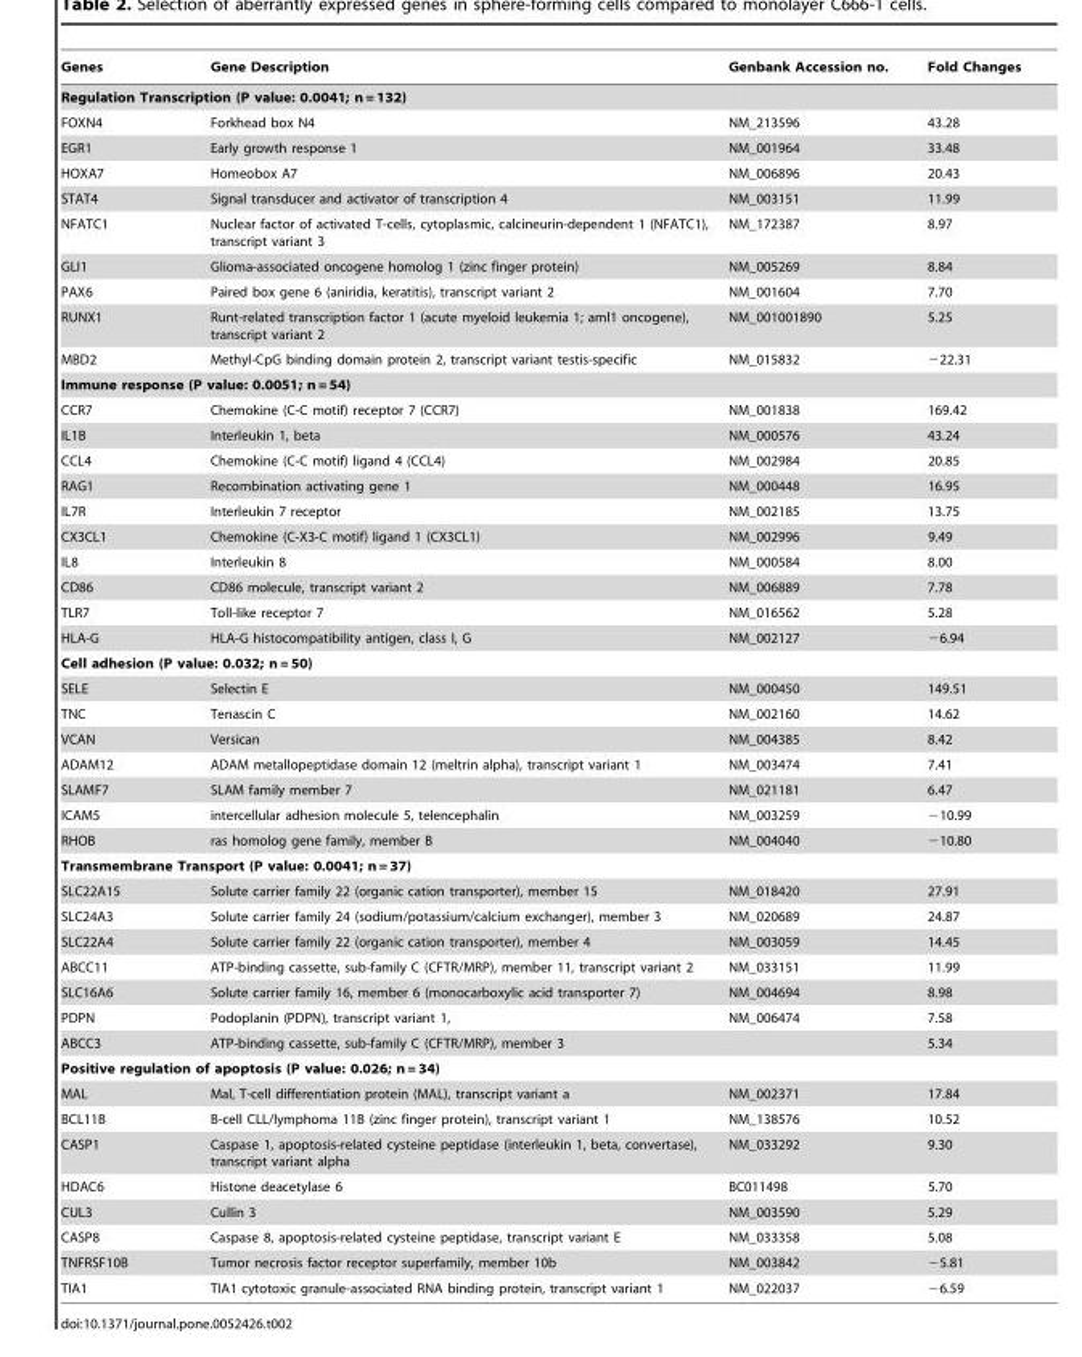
<table><thead><tr><td>Genes</td><td>Gene Description</td><td>Genbank Accession no.</td><td>Fold Changes</td></tr></thead><tbody><tr><td colspan="4">Regulation Transcription (P value: 0.0041; n = 132)</td></tr><tr><td>FOXN4</td><td>Forkhead box N4</td><td>NM_213596</td><td>43.28</td></tr><tr><td>EGR1</td><td>Early growth response 1</td><td>NM_001964</td><td>33.48</td></tr><tr><td>HOXA7</td><td>Homeobox A7</td><td>NM_006896</td><td>20.43</td></tr><tr><td>STAT4</td><td>Signal transducer and activator of transcription 4</td><td>NM_003151</td><td>11.99</td></tr><tr><td>NFATC1</td><td>Nuclear factor of activated T-cells, cytoplasmic, calcineurin-dependent 1 (NFATC1), transcript variant 3</td><td>NM_172387</td><td>8.97</td></tr><tr><td>GLI1</td><td>Glioma-associated oncogene homolog 1 (zinc finger protein)</td><td>NM_005269</td><td>8.84</td></tr><tr><td>PAX6</td><td>Paired box gene 6 (aniridia, keratitis), transcript variant 2</td><td>NM_001604</td><td>7.70</td></tr><tr><td>RUNX1</td><td>Runt-related transcription factor 1 (acute myeloid leukemia 1; aml1 oncogene), transcript variant 2</td><td>NM_001001890</td><td>5.25</td></tr><tr><td>MBD2</td><td>Methyl-CpG binding domain protein 2, transcript variant testis-specific</td><td>NM_015832</td><td>−22.31</td></tr><tr><td colspan="4">Immune response (P value: 0.0051; n = 54)</td></tr><tr><td>CCR7</td><td>Chemokine (C-C motif) receptor 7 (CCR7)</td><td>NM_001838</td><td>169.42</td></tr><tr><td>IL1B</td><td>Interleukin 1, beta</td><td>NM_000576</td><td>43.24</td></tr><tr><td>CCL4</td><td>Chemokine (C-C motif) ligand 4 (CCL4)</td><td>NM_002984</td><td>20.85</td></tr><tr><td>RAG1</td><td>Recombination activating gene 1</td><td>NM_000448</td><td>16.95</td></tr><tr><td>IL7R</td><td>Interleukin 7 receptor</td><td>NM_002185</td><td>13.75</td></tr><tr><td>CX3CL1</td><td>Chemokine (C-X3-C motif) ligand 1 (CX3CL1)</td><td>NM_002996</td><td>9.49</td></tr><tr><td>IL8</td><td>Interleukin 8</td><td>NM_000584</td><td>8.00</td></tr><tr><td>CD86</td><td>CD86 molecule, transcript variant 2</td><td>NM_006889</td><td>7.78</td></tr><tr><td>TLR7</td><td>Toll-like receptor 7</td><td>NM_016562</td><td>5.28</td></tr><tr><td>HLA-G</td><td>HLA-G histocompatibility antigen, class I, G</td><td>NM_002127</td><td>−6.94</td></tr><tr><td colspan="4">Cell adhesion (P value: 0.032; n = 50)</td></tr><tr><td>SELE</td><td>Selectin E</td><td>NM_000450</td><td>149.51</td></tr><tr><td>TNC</td><td>Tenascin C</td><td>NM_002160</td><td>14.62</td></tr><tr><td>VCAN</td><td>Versican</td><td>NM_004385</td><td>8.42</td></tr><tr><td>ADAM12</td><td>ADAM metallopeptidase domain 12 (meltrin alpha), transcript variant 1</td><td>NM_003474</td><td>7.41</td></tr><tr><td>SLAMF7</td><td>SLAM family member 7</td><td>NM_021181</td><td>6.47</td></tr><tr><td>ICAM5</td><td>intercellular adhesion molecule 5, telencephalin</td><td>NM_003259</td><td>−10.99</td></tr><tr><td>RHOB</td><td>ras homolog gene family, member B</td><td>NM_004040</td><td>−10.80</td></tr><tr><td colspan="4">Transmembrane Transport (P value: 0.0041; n = 37)</td></tr><tr><td>SLC22A15</td><td>Solute carrier family 22 (organic cation transporter), member 15</td><td>NM_018420</td><td>27.91</td></tr><tr><td>SLC24A3</td><td>Solute carrier family 24 (sodium/potassium/calcium exchanger), member 3</td><td>NM_020689</td><td>24.87</td></tr><tr><td>SLC22A4</td><td>Solute carrier family 22 (organic cation transporter), member 4</td><td>NM_003059</td><td>14.45</td></tr><tr><td>ABCC11</td><td>ATP-binding cassette, sub-family C (CFTR/MRP), member 11, transcript variant 2</td><td>NM_033151</td><td>11.99</td></tr><tr><td>SLC16A6</td><td>Solute carrier family 16, member 6 (monocarboxylic acid transporter 7)</td><td>NM_004694</td><td>8.98</td></tr><tr><td>PDPN</td><td>Podoplanin (PDPN), transcript variant 1,</td><td>NM_006474</td><td>7.58</td></tr><tr><td>ABCC3</td><td>ATP-binding cassette, sub-family C (CFTR/MRP), member 3</td><td></td><td>5.34</td></tr><tr><td colspan="4">Positive regulation of apoptosis (P value: 0.026; n = 34)</td></tr><tr><td>MAL</td><td>Mal, T-cell differentiation protein (MAL), transcript variant a</td><td>NM_002371</td><td>17.84</td></tr><tr><td>BCL11B</td><td>B-cell CLL/lymphoma 11B (zinc finger protein), transcript variant 1</td><td>NM_138576</td><td>10.52</td></tr><tr><td>CASP1</td><td>Caspase 1, apoptosis-related cysteine peptidase (interleukin 1, beta, convertase), transcript variant alpha</td><td>NM_033292</td><td>9.30</td></tr><tr><td>HDAC6</td><td>Histone deacetylase 6</td><td>BC011498</td><td>5.70</td></tr><tr><td>CUL3</td><td>Cullin 3</td><td>NM_003590</td><td>5.29</td></tr><tr><td>CASP8</td><td>Caspase 8, apoptosis-related cysteine peptidase, transcript variant E</td><td>NM_033358</td><td>5.08</td></tr><tr><td>TNFRSF10B</td><td>Tumor necrosis factor receptor superfamily, member 10b</td><td>NM_003842</td><td>−5.81</td></tr><tr><td>TIA1</td><td>TIA1 cytotoxic granule-associated RNA binding protein, transcript variant 1</td><td>NM_022037</td><td>−6.59</td></tr></tbody></table>